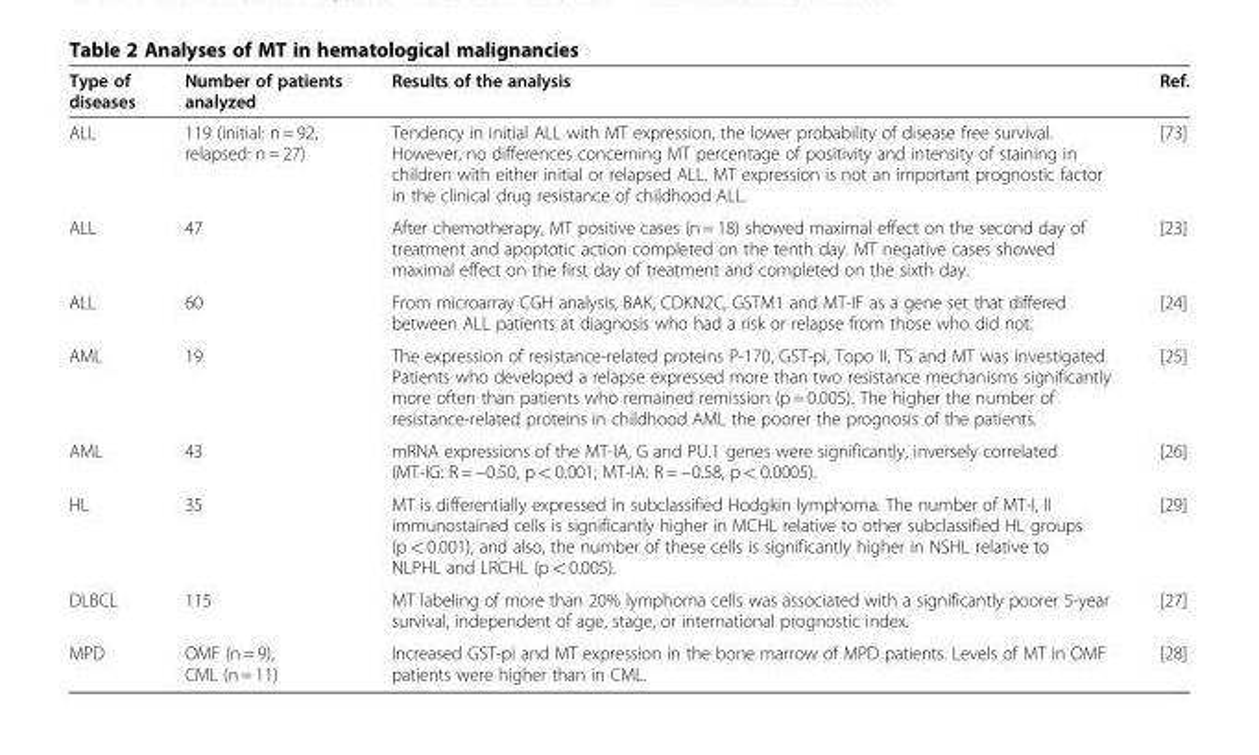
<table><thead><tr><td>Type of diseases</td><td>Number of patients analyzed</td><td>Results of the analysis</td><td>Ref.</td></tr></thead><tbody><tr><td>ALL</td><td>119 (initial: n = 92, relapsed: n = 27)</td><td>Tendency in initial ALL with MT expression, the lower probability of disease free survival. However, no differences concerning MT percentage of positivity and intensity of staining in children with either initial or relapsed ALL. MT expression is not an important prognostic factor in the clinical drug resistance of childhood ALL.</td><td>[73]</td></tr><tr><td>ALL</td><td>47</td><td>After chemotherapy, MT positive cases (n = 18) showed maximal effect on the second day of treatment and apoptotic action completed on the tenth day. MT negative cases showed maximal effect on the first day of treatment and completed on the sixth day.</td><td>[23]</td></tr><tr><td>ALL</td><td>60</td><td>From microarray CGH analysis, BAK, CDKN2C, GSTM1 and MT-IF as a gene set that differed between ALL patients at diagnosis who had a risk or relapse from those who did not.</td><td>[24]</td></tr><tr><td>AML</td><td>19</td><td>The expression of resistance-related proteins P-170, GST-pi, Topo II, TS and MT was investigated. Patients who developed a relapse expressed more than two resistance mechanisms significantly more often than patients who remained remission (p = 0.005). The higher the number of resistance-related proteins in childhood AML the poorer the prognosis of the patients.</td><td>[25]</td></tr><tr><td>AML</td><td>43</td><td>mRNA expressions of the MT-IA, G and PU.1 genes were significantly, inversely correlated (MT-IG: R = −0.50, p &lt; 0.001; MT-IA: R = −0.58, p &lt; 0.0005).</td><td>[26]</td></tr><tr><td>HL</td><td>35</td><td>MT is differentially expressed in subclassified Hodgkin lymphoma. The number of MT-I, II immunostained cells is significantly higher in MCHL relative to other subclassified HL groups (p &lt; 0.001), and also, the number of these cells is significantly higher in NSHL relative to NLPHL and LRCHL (p &lt; 0.005).</td><td>[29]</td></tr><tr><td>DLBCL</td><td>115</td><td>MT labeling of more than 20% lymphoma cells was associated with a significantly poorer 5-year survival, independent of age, stage, or international prognostic index.</td><td>[27]</td></tr><tr><td>MPD</td><td>OMF (n = 9), CML (n = 11)</td><td>Increased GST-pi and MT expression in the bone marrow of MPD patients. Levels of MT in OMF patients were higher than in CML.</td><td>[28]</td></tr></tbody></table>